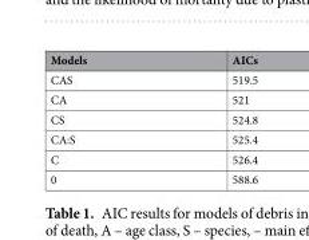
<table><thead><tr><td>Models</td><td>AICs</td></tr></thead><tbody><tr><td>CAS</td><td>519.5</td></tr><tr><td>CA</td><td>521</td></tr><tr><td>CS</td><td>524.8</td></tr><tr><td>CA:S</td><td>525.4</td></tr><tr><td>C</td><td>526.4</td></tr><tr><td>0</td><td>588.6</td></tr></tbody></table>